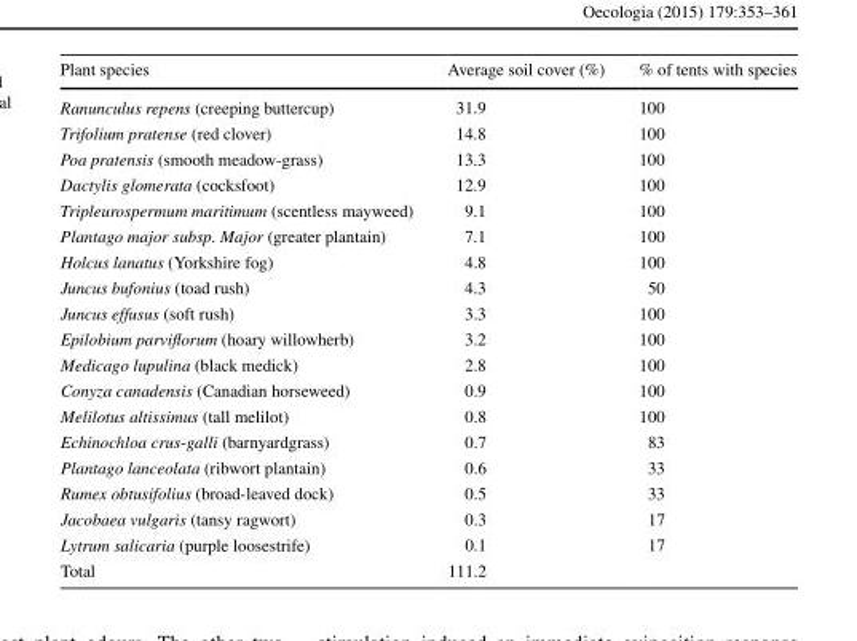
<table><thead><tr><td>Plant species</td><td>Average soil cover (%)</td><td>% of tents with species</td></tr></thead><tbody><tr><td>Ranunculus repens (creeping buttercup)</td><td>31.9</td><td>100</td></tr><tr><td>Trifolium pratense (red clover)</td><td>14.8</td><td>100</td></tr><tr><td>Poa pratensis (smooth meadow-grass)</td><td>13.3</td><td>100</td></tr><tr><td>Dactylis glomerata (cocksfoot)</td><td>12.9</td><td>100</td></tr><tr><td>Tripleurospermum maritimum (scentless mayweed)</td><td>9.1</td><td>100</td></tr><tr><td>Plantago major subsp. Major (greater plantain)</td><td>7.1</td><td>100</td></tr><tr><td>Holcus lanatus (Yorkshire fog)</td><td>4.8</td><td>100</td></tr><tr><td>Juncus bufonius (toad rush)</td><td>4.3</td><td>50</td></tr><tr><td>Juncus effusus (soft rush)</td><td>3.3</td><td>100</td></tr><tr><td>Epilobium parviflorum (hoary willowherb)</td><td>3.2</td><td>100</td></tr><tr><td>Medicago lupulina (black medick)</td><td>2.8</td><td>100</td></tr><tr><td>Conyza canadensis (Canadian horseweed)</td><td>0.9</td><td>100</td></tr><tr><td>Melilotus altissimus (tall melilot)</td><td>0.8</td><td>100</td></tr><tr><td>Echinochloa crus-galli (barnyardgrass)</td><td>0.7</td><td>83</td></tr><tr><td>Plantago lanceolata (ribwort plantain)</td><td>0.6</td><td>33</td></tr><tr><td>Rumex obtusifolius (broad-leaved dock)</td><td>0.5</td><td>33</td></tr><tr><td>Jacobaea vulgaris (tansy ragwort)</td><td>0.3</td><td>17</td></tr><tr><td>Lytrum salicaria (purple loosestrife)</td><td>0.1</td><td>17</td></tr><tr><td>Total</td><td>111.2</td><td></td></tr></tbody></table>